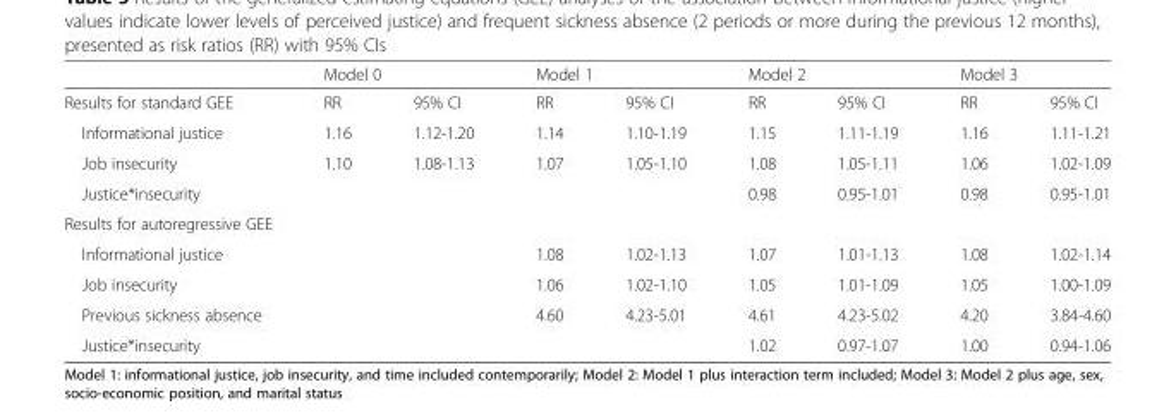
<table><thead><tr><td rowspan="2">Results for standard GEE</td><td colspan="2">Model 0</td><td colspan="2">Model 1</td><td colspan="2">Model 2</td><td colspan="2">Model 3</td></tr><tr><td>RR</td><td>95% CI</td><td>RR</td><td>95% CI</td><td>RR</td><td>95% CI</td><td>RR</td><td>95% CI</td></tr></thead><tbody><tr><td>Informational justice</td><td>1.16</td><td>1.12-1.20</td><td>1.14</td><td>1.10-1.19</td><td>1.15</td><td>1.11-1.19</td><td>1.16</td><td>1.11-1.21</td></tr><tr><td>Job insecurity</td><td>1.10</td><td>1.08-1.13</td><td>1.07</td><td>1.05-1.10</td><td>1.08</td><td>1.05-1.11</td><td>1.06</td><td>1.02-1.09</td></tr><tr><td>Justice*insecurity</td><td></td><td></td><td></td><td></td><td>0.98</td><td>0.95-1.01</td><td>0.98</td><td>0.95-1.01</td></tr><tr><td colspan="9">Results for autoregressive GEE</td></tr><tr><td>Informational justice</td><td></td><td></td><td>1.08</td><td>1.02-1.13</td><td>1.07</td><td>1.01-1.13</td><td>1.08</td><td>1.02-1.14</td></tr><tr><td>Job insecurity</td><td></td><td></td><td>1.06</td><td>1.02-1.10</td><td>1.05</td><td>1.01-1.09</td><td>1.05</td><td>1.00-1.09</td></tr><tr><td>Previous sickness absence</td><td></td><td></td><td>4.60</td><td>4.23-5.01</td><td>4.61</td><td>4.23-5.02</td><td>4.20</td><td>3.84-4.60</td></tr><tr><td>Justice*insecurity</td><td></td><td></td><td></td><td></td><td>1.02</td><td>0.97-1.07</td><td>1.00</td><td>0.94-1.06</td></tr></tbody></table>